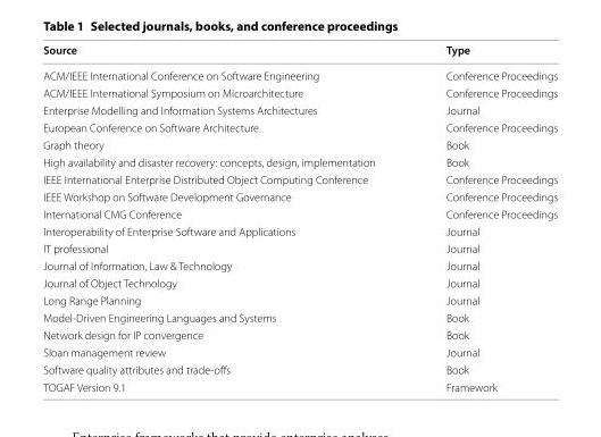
<table><thead><tr><td>Source</td><td>Type</td></tr></thead><tbody><tr><td>ACM/IEEE International Conference on Software Engineering</td><td>Conference Proceedings</td></tr><tr><td>ACM/IEEE International Symposium on Microarchitecture</td><td>Conference Proceedings</td></tr><tr><td>Enterprise Modelling and Information Systems Architectures</td><td>Journal</td></tr><tr><td>European Conference on Software Architecture</td><td>Conference Proceedings</td></tr><tr><td>Graph theory</td><td>Book</td></tr><tr><td>High availability and disaster recovery: concepts, design, implementation</td><td>Book</td></tr><tr><td>IEEE International Enterprise Distributed Object Computing Conference</td><td>Conference Proceedings</td></tr><tr><td>IEEE Workshop on Software Development Governance</td><td>Conference Proceedings</td></tr><tr><td>International CMG Conference</td><td>Conference Proceedings</td></tr><tr><td>Interoperability of Enterprise Software and Applications</td><td>Journal</td></tr><tr><td>IT professional</td><td>Journal</td></tr><tr><td>Journal of Information, Law &amp; Technology</td><td>Journal</td></tr><tr><td>Journal of Object Technology</td><td>Journal</td></tr><tr><td>Long Range Planning</td><td>Journal</td></tr><tr><td>Model-Driven Engineering Languages and Systems</td><td>Book</td></tr><tr><td>Network design for IP convergence</td><td>Book</td></tr><tr><td>Sloan management review</td><td>Journal</td></tr><tr><td>Software quality attributes and trade-offs</td><td>Book</td></tr><tr><td>TOGAF Version 9.1</td><td>Framework</td></tr></tbody></table>